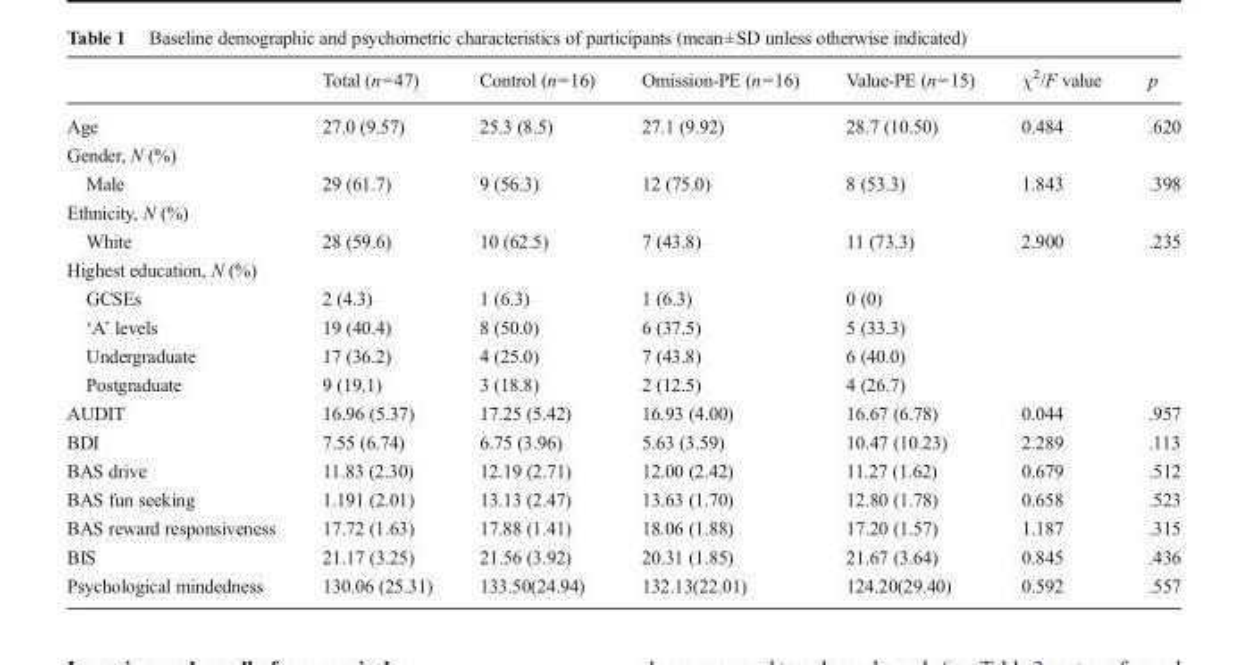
<table><thead><tr><td></td><td>Total (n=47)</td><td>Control (n=16)</td><td>Omission-PE (n=16)</td><td>Value-PE (n=15)</td><td>χ<sup>2</sup>/F value</td><td>p</td></tr></thead><tbody><tr><td>Age</td><td>27.0 (9.57)</td><td>25.3 (8.5)</td><td>27.1 (9.92)</td><td>28.7 (10.50)</td><td>0.484</td><td>.620</td></tr><tr><td colspan="7">Gender, N (%)</td></tr><tr><td>Male</td><td>29 (61.7)</td><td>9 (56.3)</td><td>12 (75.0)</td><td>8 (53.3)</td><td>1.843</td><td>.398</td></tr><tr><td colspan="7">Ethnicity, N (%)</td></tr><tr><td>White</td><td>28 (59.6)</td><td>10 (62.5)</td><td>7 (43.8)</td><td>11 (73.3)</td><td>2.900</td><td>.235</td></tr><tr><td colspan="7">Highest education, N (%)</td></tr><tr><td>GCSEs</td><td>2 (4.3)</td><td>1 (6.3)</td><td>1 (6.3)</td><td>0 (0)</td><td></td><td></td></tr><tr><td>‘A’ levels</td><td>19 (40.4)</td><td>8 (50.0)</td><td>6 (37.5)</td><td>5 (33.3)</td><td></td><td></td></tr><tr><td>Undergraduate</td><td>17 (36.2)</td><td>4 (25.0)</td><td>7 (43.8)</td><td>6 (40.0)</td><td></td><td></td></tr><tr><td>Postgraduate</td><td>9 (19.1)</td><td>3 (18.8)</td><td>2 (12.5)</td><td>4 (26.7)</td><td></td><td></td></tr><tr><td>AUDIT</td><td>16.96 (5.37)</td><td>17.25 (5.42)</td><td>16.93 (4.00)</td><td>16.67 (6.78)</td><td>0.044</td><td>.957</td></tr><tr><td>BDI</td><td>7.55 (6.74)</td><td>6.75 (3.96)</td><td>5.63 (3.59)</td><td>10.47 (10.23)</td><td>2.289</td><td>.113</td></tr><tr><td>BAS drive</td><td>11.83 (2.30)</td><td>12.19 (2.71)</td><td>12.00 (2.42)</td><td>11.27 (1.62)</td><td>0.679</td><td>.512</td></tr><tr><td>BAS fun seeking</td><td>1.191 (2.01)</td><td>13.13 (2.47)</td><td>13.63 (1.70)</td><td>12.80 (1.78)</td><td>0.658</td><td>.523</td></tr><tr><td>BAS reward responsiveness</td><td>17.72 (1.63)</td><td>17.88 (1.41)</td><td>18.06 (1.88)</td><td>17.20 (1.57)</td><td>1.187</td><td>.315</td></tr><tr><td>BIS</td><td>21.17 (3.25)</td><td>21.56 (3.92)</td><td>20.31 (1.85)</td><td>21.67 (3.64)</td><td>0.845</td><td>.436</td></tr><tr><td>Psychological mindedness</td><td>130.06 (25.31)</td><td>133.50(24.94)</td><td>132.13(22.01)</td><td>124.20(29.40)</td><td>0.592</td><td>.557</td></tr></tbody></table>